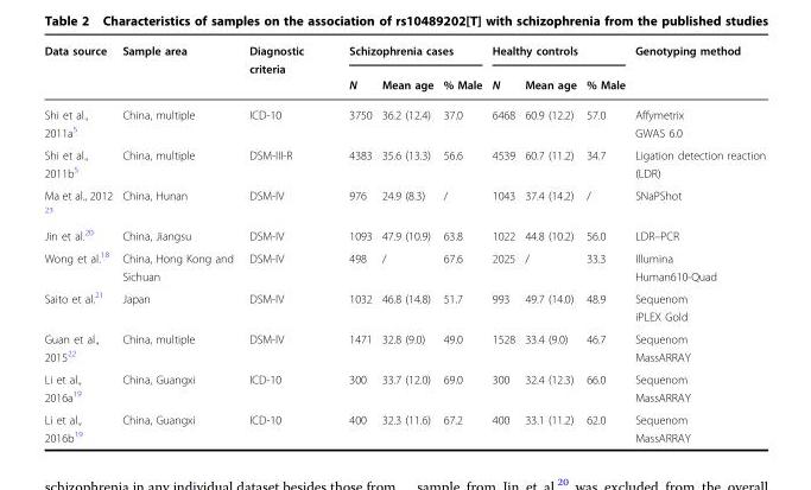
<table><thead><tr><td rowspan="2">Data source</td><td rowspan="2">Sample area</td><td rowspan="2">Diagnostic criteria</td><td colspan="3">Schizophrenia cases</td><td colspan="3">Healthy controls</td><td rowspan="2">Genotyping method</td></tr><tr><td>N</td><td>Mean age</td><td>% Male</td><td>N</td><td>Mean age</td><td>% Male</td></tr></thead><tbody><tr><td>Shi et al., 2011a<sup>5</sup></td><td>China, multiple</td><td>ICD-10</td><td>3750</td><td>36.2 (12.4)</td><td>37.0</td><td>6468</td><td>60.9 (12.2)</td><td>57.0</td><td>Affymetrix GWAS 6.0</td></tr><tr><td>Shi et al., 2011b<sup>5</sup></td><td>China, multiple</td><td>DSM-III-R</td><td>4383</td><td>35.6 (13.3)</td><td>56.6</td><td>4539</td><td>60.7 (11.2)</td><td>34.7</td><td>Ligation detection reaction (LDR)</td></tr><tr><td>Ma et al., 2012 <sup>23</sup></td><td>China, Hunan</td><td>DSM-IV</td><td>976</td><td>24.9 (8.3)</td><td>/</td><td>1043</td><td>37.4 (14.2)</td><td>/</td><td>SNaPShot</td></tr><tr><td>Jin et al.<sup>20</sup></td><td>China, Jiangsu</td><td>DSM-IV</td><td>1093</td><td>47.9 (10.9)</td><td>63.8</td><td>1022</td><td>44.8 (10.2)</td><td>56.0</td><td>LDR–PCR</td></tr><tr><td>Wong et al.<sup>18</sup></td><td>China, Hong Kong and Sichuan</td><td>DSM-IV</td><td>498</td><td>/</td><td>67.6</td><td>2025</td><td>/</td><td>33.3</td><td>Illumina Human610-Quad</td></tr><tr><td>Saito et al.<sup>21</sup></td><td>Japan</td><td>DSM-IV</td><td>1032</td><td>46.8 (14.8)</td><td>51.7</td><td>993</td><td>49.7 (14.0)</td><td>48.9</td><td>Sequenom iPLEX Gold</td></tr><tr><td>Guan et al., 2015<sup>22</sup></td><td>China, multiple</td><td>DSM-IV</td><td>1471</td><td>32.8 (9.0)</td><td>49.0</td><td>1528</td><td>33.4 (9.0)</td><td>46.7</td><td>Sequenom MassARRAY</td></tr><tr><td>Li et al., 2016a<sup>19</sup></td><td>China, Guangxi</td><td>ICD-10</td><td>300</td><td>33.7 (12.0)</td><td>69.0</td><td>300</td><td>32.4 (12.3)</td><td>66.0</td><td>Sequenom MassARRAY</td></tr><tr><td>Li et al., 2016b<sup>19</sup></td><td>China, Guangxi</td><td>ICD-10</td><td>400</td><td>32.3 (11.6)</td><td>67.2</td><td>400</td><td>33.1 (11.2)</td><td>62.0</td><td>Sequenom MassARRAY</td></tr></tbody></table>